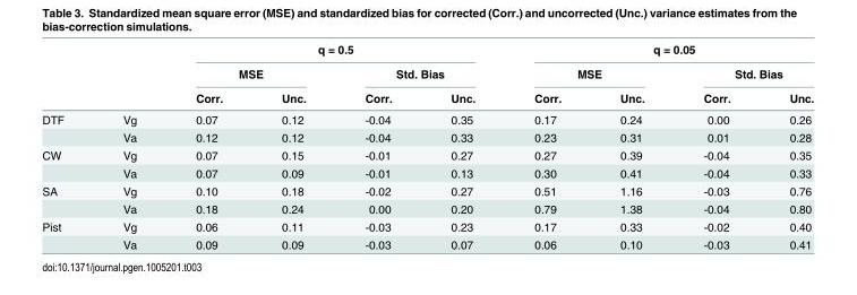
<table><thead><tr><td rowspan="3"></td><td rowspan="3"></td><td colspan="4">q = 0.5</td><td colspan="4">q = 0.05</td></tr><tr><td colspan="2">MSE</td><td colspan="2">Std. Bias</td><td colspan="2">MSE</td><td colspan="2">Std. Bias</td></tr><tr><td>Corr.</td><td>Unc.</td><td>Corr.</td><td>Unc.</td><td>Corr.</td><td>Unc.</td><td>Corr.</td><td>Unc.</td></tr></thead><tbody><tr><td rowspan="2">DTF</td><td>Vg</td><td>0.07</td><td>0.12</td><td>-0.04</td><td>0.35</td><td>0.17</td><td>0.24</td><td>0.00</td><td>0.26</td></tr><tr><td>Va</td><td>0.12</td><td>0.12</td><td>-0.04</td><td>0.33</td><td>0.23</td><td>0.31</td><td>0.01</td><td>0.28</td></tr><tr><td rowspan="2">CW</td><td>Vg</td><td>0.07</td><td>0.15</td><td>-0.01</td><td>0.27</td><td>0.27</td><td>0.39</td><td>-0.04</td><td>0.35</td></tr><tr><td>Va</td><td>0.07</td><td>0.09</td><td>-0.01</td><td>0.13</td><td>0.30</td><td>0.41</td><td>-0.04</td><td>0.33</td></tr><tr><td rowspan="2">SA</td><td>Vg</td><td>0.10</td><td>0.18</td><td>-0.02</td><td>0.27</td><td>0.51</td><td>1.16</td><td>-0.03</td><td>0.76</td></tr><tr><td>Va</td><td>0.18</td><td>0.24</td><td>0.00</td><td>0.20</td><td>0.79</td><td>1.38</td><td>-0.04</td><td>0.80</td></tr><tr><td rowspan="2">Pist</td><td>Vg</td><td>0.06</td><td>0.11</td><td>-0.03</td><td>0.23</td><td>0.17</td><td>0.33</td><td>-0.02</td><td>0.40</td></tr><tr><td>Va</td><td>0.09</td><td>0.09</td><td>-0.03</td><td>0.07</td><td>0.06</td><td>0.10</td><td>-0.03</td><td>0.41</td></tr></tbody></table>